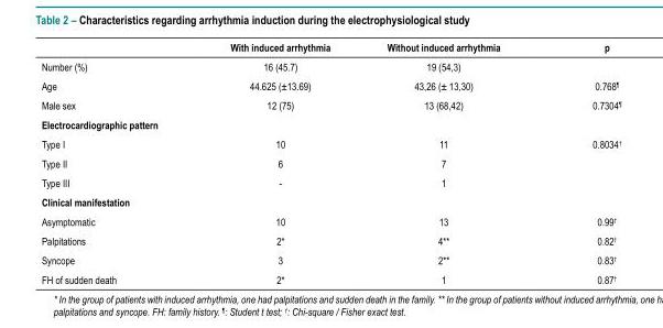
<table><thead><tr><td></td><td>With induced arrhythmia</td><td>Without induced arrhythmia</td><td>p</td></tr></thead><tbody><tr><td>Number (%)</td><td>16 (45.7)</td><td>19 (54,3)</td><td></td></tr><tr><td>Age</td><td>44.625 (±13.69)</td><td>43,26 (± 13,30)</td><td>0.768<sup>¶</sup></td></tr><tr><td>Male sex</td><td>12 (75)</td><td>13 (68,42)</td><td>0.7304<sup>¶</sup></td></tr><tr><td colspan="4">Electrocardiographic pattern</td></tr><tr><td>Type I</td><td>10</td><td>11</td><td>0.8034<sup>†</sup></td></tr><tr><td>Type II</td><td>6</td><td>7</td><td></td></tr><tr><td>Type III</td><td>-</td><td>1</td><td></td></tr><tr><td colspan="4">Clinical manifestation</td></tr><tr><td>Asymptomatic</td><td>10</td><td>13</td><td>0.99<sup>†</sup></td></tr><tr><td>Palpitations</td><td>2*</td><td>4**</td><td>0.82<sup>†</sup></td></tr><tr><td>Syncope</td><td>3</td><td>2**</td><td>0.83<sup>†</sup></td></tr><tr><td>FH of sudden death</td><td>2*</td><td>1</td><td>0.87<sup>†</sup></td></tr></tbody></table>